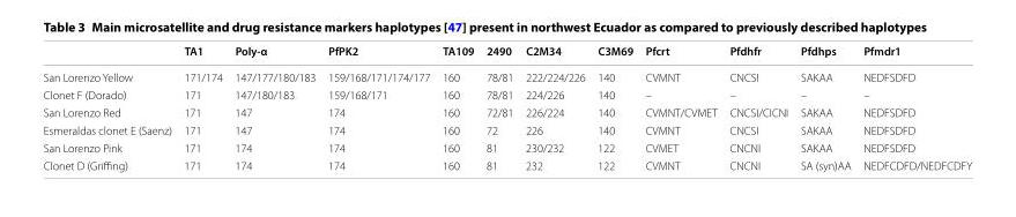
<table><thead><tr><td></td><td>TA1</td><td>Poly-α</td><td>PfPK2</td><td>TA109</td><td>2490</td><td>C2M34</td><td>C3M69</td><td>Pfcrt</td><td>Pfdhfr</td><td>Pfdhps</td><td>Pfmdr1</td></tr></thead><tbody><tr><td>San Lorenzo Yellow</td><td>171/174</td><td>147/177/180/183</td><td>159/168/171/174/177</td><td>160</td><td>78/81</td><td>222/224/226</td><td>140</td><td>CVMNT</td><td>CNCSI</td><td>SAKAA</td><td>NEDFSDFD</td></tr><tr><td>Clonet F (Dorado)</td><td>171</td><td>147/180/183</td><td>159/168/171</td><td>160</td><td>78/81</td><td>224/226</td><td>140</td><td>–</td><td>–</td><td>–</td><td>–</td></tr><tr><td>San Lorenzo Red</td><td>171</td><td>147</td><td>174</td><td>160</td><td>72/81</td><td>226/224</td><td>140</td><td>CVMNT/CVMET</td><td>CNCSI/CICNI</td><td>SAKAA</td><td>NEDFSDFD</td></tr><tr><td>Esmeraldas clonet E (Saenz)</td><td>171</td><td>147</td><td>174</td><td>160</td><td>72</td><td>226</td><td>140</td><td>CVMNT</td><td>CNCSI</td><td>SAKAA</td><td>NEDFSDFD</td></tr><tr><td>San Lorenzo Pink</td><td>171</td><td>174</td><td>174</td><td>160</td><td>81</td><td>230/232</td><td>122</td><td>CVMET</td><td>CNCNI</td><td>SAKAA</td><td>NEDFSDFD</td></tr><tr><td>Clonet D (Griffing)</td><td>171</td><td>174</td><td>174</td><td>160</td><td>81</td><td>232</td><td>122</td><td>CVMNT</td><td>CNCNI</td><td>SA (syn)AA</td><td>NEDFCDFD/NEDFCDFY</td></tr></tbody></table>